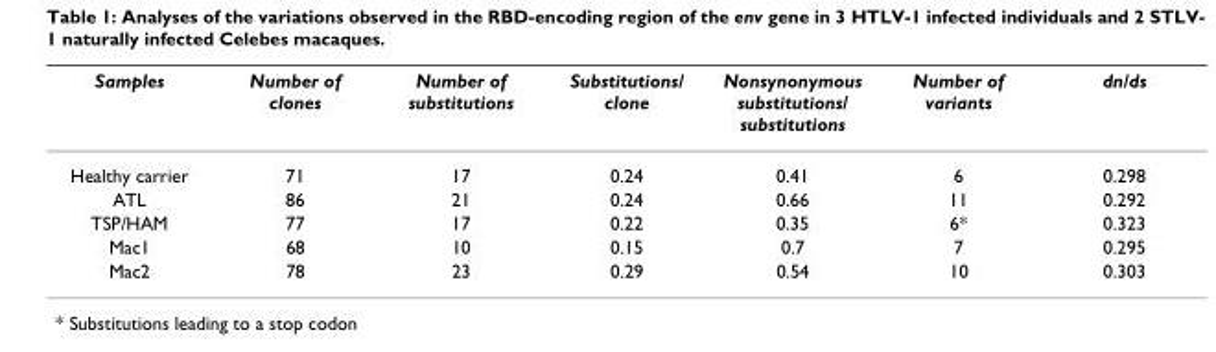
<table><thead><tr><td>Samples</td><td>Number of clones</td><td>Number of substitutions</td><td>Substitutions/ clone</td><td>Nonsynonymous substitutions/ substitutions</td><td>Number of variants</td><td>dn/ds</td></tr></thead><tbody><tr><td>Healthy carrier</td><td>71</td><td>17</td><td>0.24</td><td>0.41</td><td>6</td><td>0.298</td></tr><tr><td>ATL</td><td>86</td><td>21</td><td>0.24</td><td>0.66</td><td>11</td><td>0.292</td></tr><tr><td>TSP/HAM</td><td>77</td><td>17</td><td>0.22</td><td>0.35</td><td>6*</td><td>0.323</td></tr><tr><td>Mac1</td><td>68</td><td>10</td><td>0.15</td><td>0.7</td><td>7</td><td>0.295</td></tr><tr><td>Mac2</td><td>78</td><td>23</td><td>0.29</td><td>0.54</td><td>10</td><td>0.303</td></tr></tbody></table>